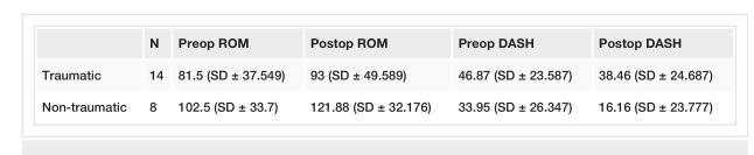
<table><thead><tr><td></td><td>N</td><td>Preop ROM</td><td>Postop ROM</td><td>Preop DASH</td><td>Postop DASH</td></tr></thead><tbody><tr><td>Traumatic</td><td>14</td><td>81.5 (SD ± 37.549)</td><td>93 (SD ± 49.589)</td><td>46.87 (SD ± 23.587)</td><td>38.46 (SD ± 24.687)</td></tr><tr><td>Non-traumatic</td><td>8</td><td>102.5 (SD ± 33.7)</td><td>121.88 (SD ± 32.176)</td><td>33.95 (SD ± 26.347)</td><td>16.16 (SD ± 23.777)</td></tr></tbody></table>